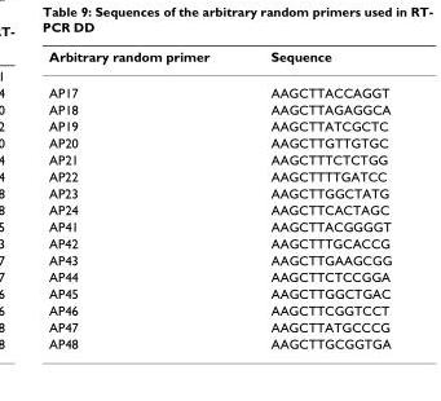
<table><thead><tr><td>Arbitrary random primer</td><td>Sequence</td></tr></thead><tbody><tr><td>AP17</td><td>AAGCTTACCAGGT</td></tr><tr><td>AP18</td><td>AAGCTTAGAGGCA</td></tr><tr><td>AP19</td><td>AAGCTTATCGCTC</td></tr><tr><td>AP20</td><td>AAGCTTGTTGTGC</td></tr><tr><td>AP21</td><td>AAGCTTTCTCTGG</td></tr><tr><td>AP22</td><td>AAGCTTTTGATCC</td></tr><tr><td>AP23</td><td>AAGCTTGGCTATG</td></tr><tr><td>AP24</td><td>AAGCTTCACTAGC</td></tr><tr><td>AP41</td><td>AAGCTTACGGGGT</td></tr><tr><td>AP42</td><td>AAGCTTTGCACCG</td></tr><tr><td>AP43</td><td>AAGCTTGAAGCGG</td></tr><tr><td>AP44</td><td>AAGCTTCTCCGGA</td></tr><tr><td>AP45</td><td>AAGCTTGGCTGAC</td></tr><tr><td>AP46</td><td>AAGCTTCGGTCCT</td></tr><tr><td>AP47</td><td>AAGCTTATGCCCG</td></tr><tr><td>AP48</td><td>AAGCTTGCGGTGA</td></tr></tbody></table>